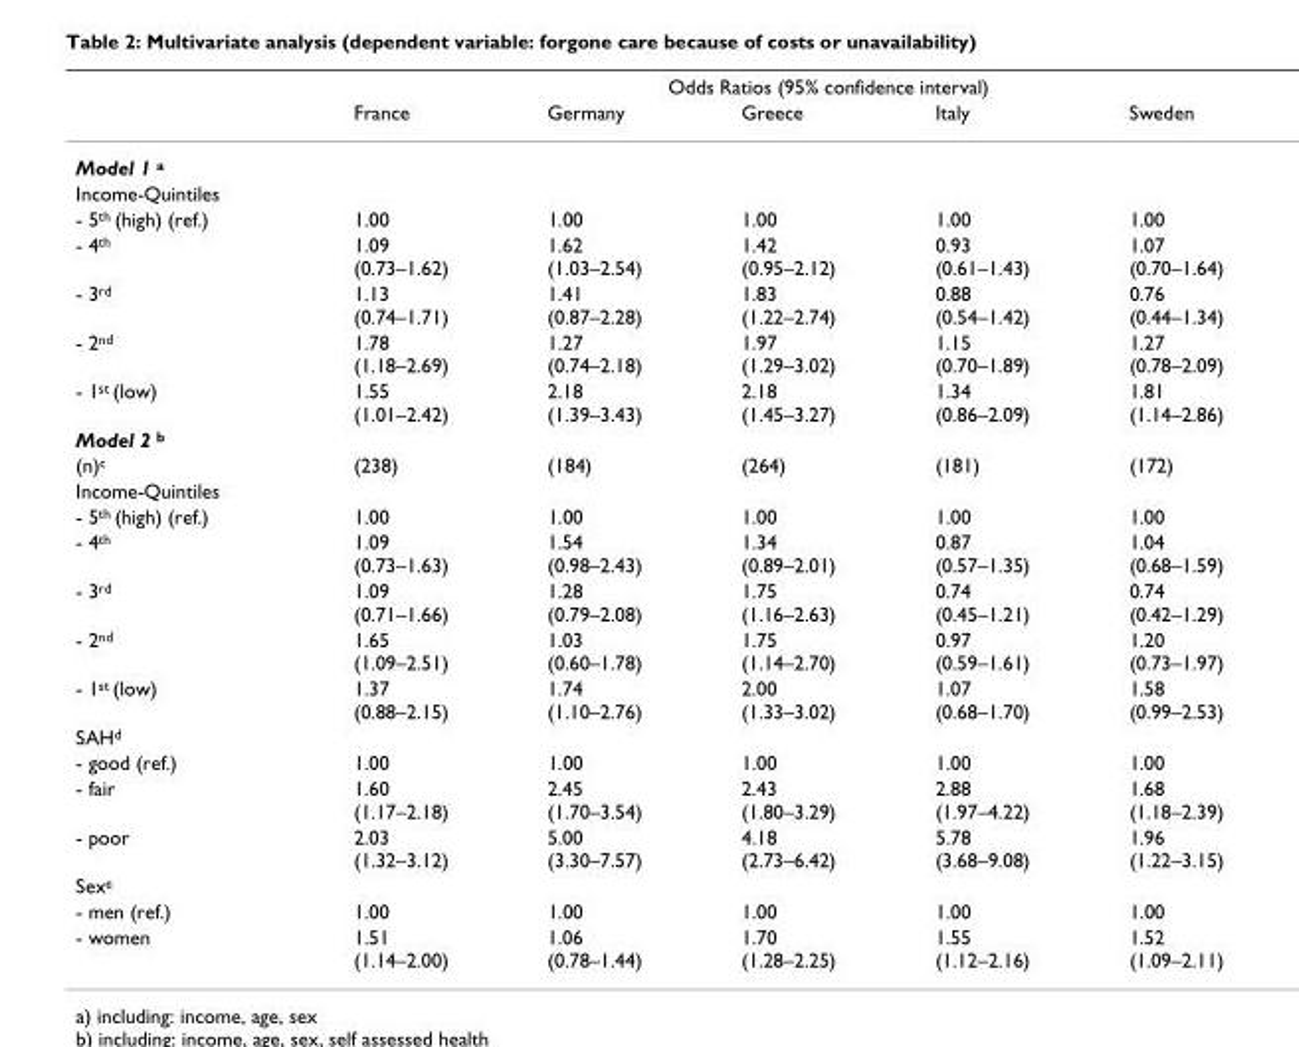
<table><thead><tr><td rowspan="2"></td><td colspan="5">Odds Ratios (95% confidence interval)</td></tr><tr><td>France</td><td>Germany</td><td>Greece</td><td>Italy</td><td>Sweden</td></tr></thead><tbody><tr><td colspan="6">Model 1 <sup>a</sup></td></tr><tr><td colspan="6">Income-Quintiles</td></tr><tr><td>- 5<sup>th</sup> (high) (ref.)</td><td>1.00</td><td>1.00</td><td>1.00</td><td>1.00</td><td>1.00</td></tr><tr><td>- 4<sup>th</sup></td><td>1.09 (0.73–1.62)</td><td>1.62 (1.03–2.54)</td><td>1.42 (0.95–2.12)</td><td>0.93 (0.61–1.43)</td><td>1.07 (0.70–1.64)</td></tr><tr><td>- 3<sup>rd</sup></td><td>1.13 (0.74–1.71)</td><td>1.41 (0.87–2.28)</td><td>1.83 (1.22–2.74)</td><td>0.88 (0.54–1.42)</td><td>0.76 (0.44–1.34)</td></tr><tr><td>- 2<sup>nd</sup></td><td>1.78 (1.18–2.69)</td><td>1.27 (0.74–2.18)</td><td>1.97 (1.29–3.02)</td><td>1.15 (0.70–1.89)</td><td>1.27 (0.78–2.09)</td></tr><tr><td>- 1<sup>st</sup> (low)</td><td>1.55 (1.01–2.42)</td><td>2.18 (1.39–3.43)</td><td>2.18 (1.45–3.27)</td><td>1.34 (0.86–2.09)</td><td>1.81 (1.14–2.86)</td></tr><tr><td colspan="6">Model 2 <sup>b</sup></td></tr><tr><td>(n)<sup>c</sup></td><td>(238)</td><td>(184)</td><td>(264)</td><td>(181)</td><td>(172)</td></tr><tr><td colspan="6">Income-Quintiles</td></tr><tr><td>- 5<sup>th</sup> (high) (ref.)</td><td>1.00</td><td>1.00</td><td>1.00</td><td>1.00</td><td>1.00</td></tr><tr><td>- 4<sup>th</sup></td><td>1.09 (0.73–1.63)</td><td>1.54 (0.98–2.43)</td><td>1.34 (0.89–2.01)</td><td>0.87 (0.57–1.35)</td><td>1.04 (0.68–1.59)</td></tr><tr><td>- 3<sup>rd</sup></td><td>1.09 (0.71–1.66)</td><td>1.28 (0.79–2.08)</td><td>1.75 (1.16–2.63)</td><td>0.74 (0.45–1.21)</td><td>0.74 (0.42–1.29)</td></tr><tr><td>- 2<sup>nd</sup></td><td>1.65 (1.09–2.51)</td><td>1.03 (0.60–1.78)</td><td>1.75 (1.14–2.70)</td><td>0.97 (0.59–1.61)</td><td>1.20 (0.73–1.97)</td></tr><tr><td>- 1<sup>st</sup> (low)</td><td>1.37 (0.88–2.15)</td><td>1.74 (1.10–2.76)</td><td>2.00 (1.33–3.02)</td><td>1.07 (0.68–1.70)</td><td>1.58 (0.99–2.53)</td></tr><tr><td colspan="6">SAH<sup>d</sup></td></tr><tr><td>- good (ref.)</td><td>1.00</td><td>1.00</td><td>1.00</td><td>1.00</td><td>1.00</td></tr><tr><td>- fair</td><td>1.60 (1.17–2.18)</td><td>2.45 (1.70–3.54)</td><td>2.43 (1.80–3.29)</td><td>2.88 (1.97–4.22)</td><td>1.68 (1.18–2.39)</td></tr><tr><td>- poor</td><td>2.03 (1.32–3.12)</td><td>5.00 (3.30–7.57)</td><td>4.18 (2.73–6.42)</td><td>5.78 (3.68–9.08)</td><td>1.96 (1.22–3.15)</td></tr><tr><td colspan="6">Sex<sup>e</sup></td></tr><tr><td>- men (ref.)</td><td>1.00</td><td>1.00</td><td>1.00</td><td>1.00</td><td>1.00</td></tr><tr><td>- women</td><td>1.51 (1.14–2.00)</td><td>1.06 (0.78–1.44)</td><td>1.70 (1.28–2.25)</td><td>1.55 (1.12–2.16)</td><td>1.52 (1.09–2.11)</td></tr></tbody></table>